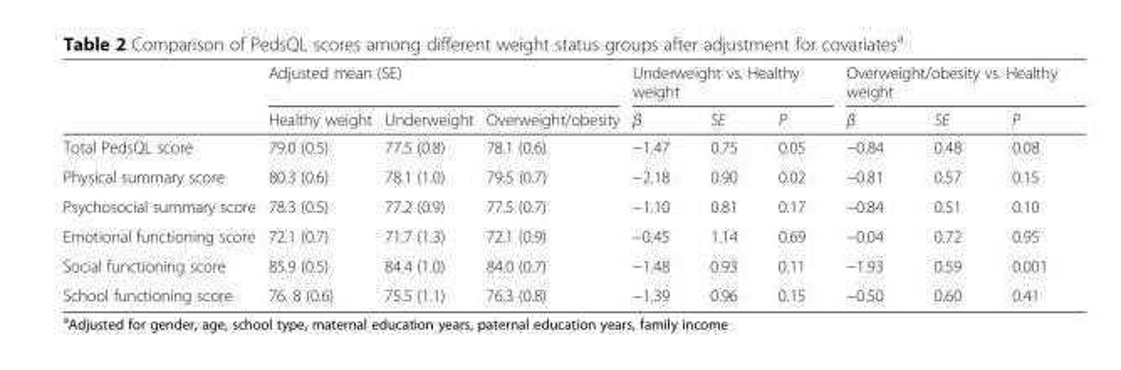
<table><thead><tr><td rowspan="2"></td><td colspan="3">Adjusted mean (SE)</td><td colspan="3">Underweight vs. Healthy weight</td><td colspan="3">Overweight/obesity vs. Healthy weight</td></tr><tr><td>Healthy weight</td><td>Underweight</td><td>Overweight/obesity</td><td>β</td><td>SE</td><td>P</td><td>β</td><td>SE</td><td>P</td></tr></thead><tbody><tr><td>Total PedsQL score</td><td>79.0 (0.5)</td><td>77.5 (0.8)</td><td>78.1 (0.6)</td><td>−1.47</td><td>0.75</td><td>0.05</td><td>−0.84</td><td>0.48</td><td>0.08</td></tr><tr><td>Physical summary score</td><td>80.3 (0.6)</td><td>78.1 (1.0)</td><td>79.5 (0.7)</td><td>−2.18</td><td>0.90</td><td>0.02</td><td>−0.81</td><td>0.57</td><td>0.15</td></tr><tr><td>Psychosocial summary score</td><td>78.3 (0.5)</td><td>77.2 (0.9)</td><td>77.5 (0.7)</td><td>−1.10</td><td>0.81</td><td>0.17</td><td>−0.84</td><td>0.51</td><td>0.10</td></tr><tr><td>Emotional functioning score</td><td>72.1 (0.7)</td><td>71.7 (1.3)</td><td>72.1 (0.9)</td><td>−0.45</td><td>1.14</td><td>0.69</td><td>−0.04</td><td>0.72</td><td>0.95</td></tr><tr><td>Social functioning score</td><td>85.9 (0.5)</td><td>84.4 (1.0)</td><td>84.0 (0.7)</td><td>−1.48</td><td>0.93</td><td>0.11</td><td>−1.93</td><td>0.59</td><td>0.001</td></tr><tr><td>School functioning score</td><td>76. 8 (0.6)</td><td>75.5 (1.1)</td><td>76.3 (0.8)</td><td>−1.39</td><td>0.96</td><td>0.15</td><td>−0.50</td><td>0.60</td><td>0.41</td></tr></tbody></table>